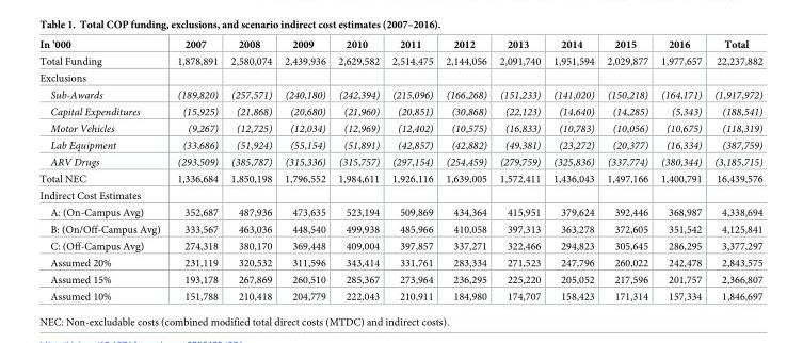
<table><thead><tr><td>In ‘000</td><td>2007</td><td>2008</td><td>2009</td><td>2010</td><td>2011</td><td>2012</td><td>2013</td><td>2014</td><td>2015</td><td>2016</td><td>Total</td></tr></thead><tbody><tr><td>Total Funding</td><td>1,878,891</td><td>2,580,074</td><td>2,439,936</td><td>2,629,582</td><td>2,514,475</td><td>2,144,056</td><td>2,091,740</td><td>1,951,594</td><td>2,029,877</td><td>1,977,657</td><td>22,237,882</td></tr><tr><td colspan="12">Exclusions</td></tr><tr><td>Sub-Awards</td><td>(189,820)</td><td>(257,571)</td><td>(240,180)</td><td>(242,394)</td><td>(215,096)</td><td>(166,268)</td><td>(151,233)</td><td>(141,020)</td><td>(150,218)</td><td>(164,171)</td><td>(1,917,972)</td></tr><tr><td>Capital Expenditures</td><td>(15,925)</td><td>(21,868)</td><td>(20,680)</td><td>(21,960)</td><td>(20,851)</td><td>(30,868)</td><td>(22,123)</td><td>(14,640)</td><td>(14,285)</td><td>(5,343)</td><td>(188,541)</td></tr><tr><td>Motor Vehicles</td><td>(9,267)</td><td>(12,725)</td><td>(12,034)</td><td>(12,969)</td><td>(12,402)</td><td>(10,575)</td><td>(16,833)</td><td>(10,783)</td><td>(10,056)</td><td>(10,675)</td><td>(118,319)</td></tr><tr><td>Lab Equipment</td><td>(33,686)</td><td>(51,924)</td><td>(55,154)</td><td>(51,891)</td><td>(42,857)</td><td>(42,882)</td><td>(49,381)</td><td>(23,272)</td><td>(20,377)</td><td>(16,334)</td><td>(387,759)</td></tr><tr><td>ARV Drugs</td><td>(293,509)</td><td>(385,787)</td><td>(315,336)</td><td>(315,757)</td><td>(297,154)</td><td>(254,459)</td><td>(279,759)</td><td>(325,836)</td><td>(337,774)</td><td>(380,344)</td><td>(3,185,715)</td></tr><tr><td>Total NEC</td><td>1,336,684</td><td>1,850,198</td><td>1,796,552</td><td>1,984,611</td><td>1,926,116</td><td>1,639,005</td><td>1,572,411</td><td>1,436,043</td><td>1,497,166</td><td>1,400,791</td><td>16,439,576</td></tr><tr><td colspan="12">Indirect Cost Estimates</td></tr><tr><td>A: (On-Campus Avg)</td><td>352,687</td><td>487,936</td><td>473,635</td><td>523,194</td><td>509,869</td><td>434,364</td><td>415,951</td><td>379,624</td><td>392,446</td><td>368,987</td><td>4,338,694</td></tr><tr><td>B: (On/Off-Campus Avg)</td><td>333,567</td><td>463,036</td><td>448,540</td><td>499,938</td><td>485,966</td><td>410,058</td><td>397,313</td><td>363,278</td><td>372,605</td><td>351,542</td><td>4,125,841</td></tr><tr><td>C: (Off-Campus Avg)</td><td>274,318</td><td>380,170</td><td>369,448</td><td>409,004</td><td>397,857</td><td>337,271</td><td>322,466</td><td>294,823</td><td>305,645</td><td>286,295</td><td>3,377,297</td></tr><tr><td>Assumed 20%</td><td>231,119</td><td>320,532</td><td>311,596</td><td>343,414</td><td>331,761</td><td>283,334</td><td>271,523</td><td>247,796</td><td>260,022</td><td>242,478</td><td>2,843,575</td></tr><tr><td>Assumed 15%</td><td>193,178</td><td>267,869</td><td>260,510</td><td>285,367</td><td>273,964</td><td>236,295</td><td>225,220</td><td>205,052</td><td>217,596</td><td>201,757</td><td>2,366,807</td></tr><tr><td>Assumed 10%</td><td>151,788</td><td>210,418</td><td>204,779</td><td>222,043</td><td>210,911</td><td>184,980</td><td>174,707</td><td>158,423</td><td>171,314</td><td>157,334</td><td>1,846,697</td></tr></tbody></table>